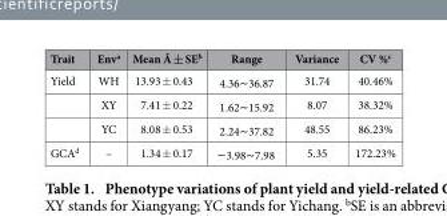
<table><thead><tr><td>Trait</td><td>Env<sup>a</sup></td><td>Mean Â ± SE<sup>b</sup></td><td>Range</td><td>Variance</td><td>CV %<sup>c</sup></td></tr></thead><tbody><tr><td rowspan="3">Yield</td><td>WH</td><td>13.93 ± 0.43</td><td>4.36~36.87</td><td>31.74</td><td>40.46%</td></tr><tr><td>XY</td><td>7.41 ± 0.22</td><td>1.62~15.92</td><td>8.07</td><td>38.32%</td></tr><tr><td>YC</td><td>8.08 ± 0.53</td><td>2.24~37.82</td><td>48.55</td><td>86.23%</td></tr><tr><td>GCA<sup>d</sup></td><td>–</td><td>1.34 ± 0.17</td><td>−3.98~7.98</td><td>5.35</td><td>172.23%</td></tr></tbody></table>